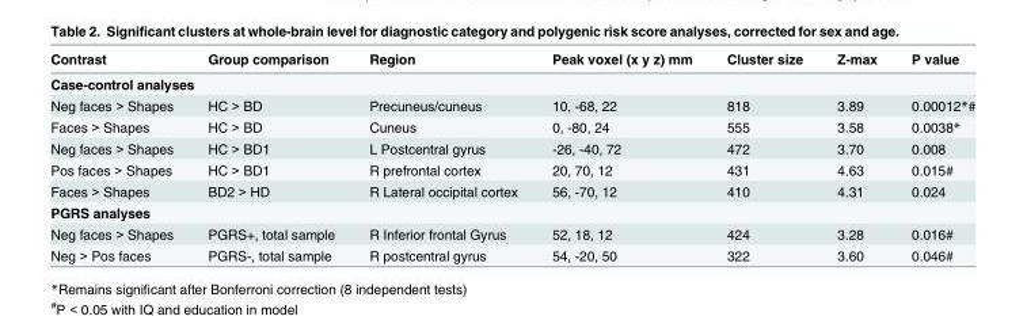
<table><thead><tr><td>Contrast</td><td>Group comparison</td><td>Region</td><td>Peak voxel (x y z) mm</td><td>Cluster size</td><td>Z-max</td><td>P value</td></tr></thead><tbody><tr><td colspan="7">Case-control analyses</td></tr><tr><td>Neg faces &gt; Shapes</td><td>HC &gt; BD</td><td>Precuneus/cuneus</td><td>10, -68, 22</td><td>818</td><td>3.89</td><td>0.00012*#</td></tr><tr><td>Faces &gt; Shapes</td><td>HC &gt; BD</td><td>Cuneus</td><td>0, -80, 24</td><td>555</td><td>3.58</td><td>0.0038*</td></tr><tr><td>Neg faces &gt; Shapes</td><td>HC &gt; BD1</td><td>L Postcentral gyrus</td><td>-26, -40, 72</td><td>472</td><td>3.70</td><td>0.008</td></tr><tr><td>Pos faces &gt; Shapes</td><td>HC &gt; BD1</td><td>R prefrontal cortex</td><td>20, 70, 12</td><td>431</td><td>4.63</td><td>0.015#</td></tr><tr><td>Faces &gt; Shapes</td><td>BD2 &gt; HD</td><td>R Lateral occipital cortex</td><td>56, -70, 12</td><td>410</td><td>4.31</td><td>0.024</td></tr><tr><td colspan="7">PGRS analyses</td></tr><tr><td>Neg faces &gt; Shapes</td><td>PGRS+, total sample</td><td>R Inferior frontal Gyrus</td><td>52, 18, 12</td><td>424</td><td>3.28</td><td>0.016#</td></tr><tr><td>Neg &gt; Pos faces</td><td>PGRS-, total sample</td><td>R postcentral gyrus</td><td>54, -20, 50</td><td>322</td><td>3.60</td><td>0.046#</td></tr></tbody></table>